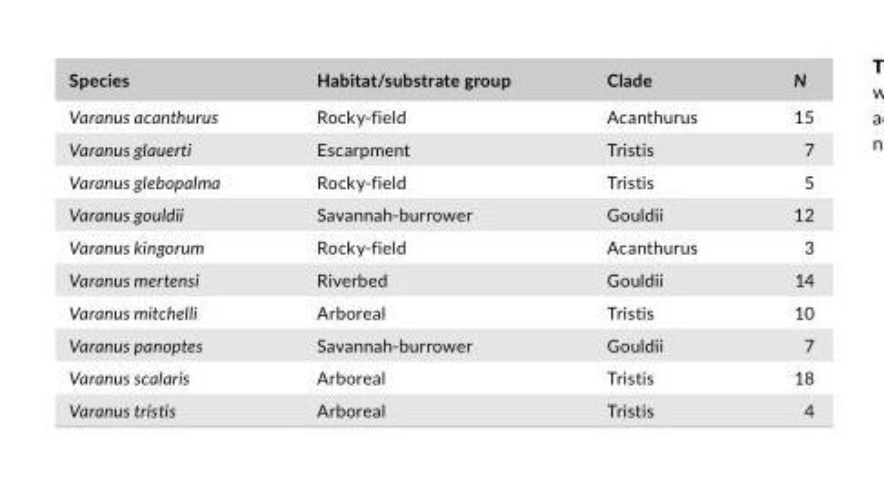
<table><thead><tr><td>Species</td><td>Habitat/substrate group</td><td>Clade</td><td>N</td></tr></thead><tbody><tr><td>Varanus acanthurus</td><td>Rocky- field</td><td>Acanthurus</td><td>15</td></tr><tr><td>Varanus glauerti</td><td>Escarpment</td><td>Tristis</td><td>7</td></tr><tr><td>Varanus glebopalma</td><td>Rocky- field</td><td>Tristis</td><td>5</td></tr><tr><td>Varanus gouldii</td><td>Savannah- burrower</td><td>Gouldii</td><td>12</td></tr><tr><td>Varanus kingorum</td><td>Rocky- field</td><td>Acanthurus</td><td>3</td></tr><tr><td>Varanus mertensi</td><td>Riverbed</td><td>Gouldii</td><td>14</td></tr><tr><td>Varanus mitchelli</td><td>Arboreal</td><td>Tristis</td><td>10</td></tr><tr><td>Varanus panoptes</td><td>Savannah- burrower</td><td>Gouldii</td><td>7</td></tr><tr><td>Varanus scalaris</td><td>Arboreal</td><td>Tristis</td><td>18</td></tr><tr><td>Varanus tristis</td><td>Arboreal</td><td>Tristis</td><td>4</td></tr></tbody></table>